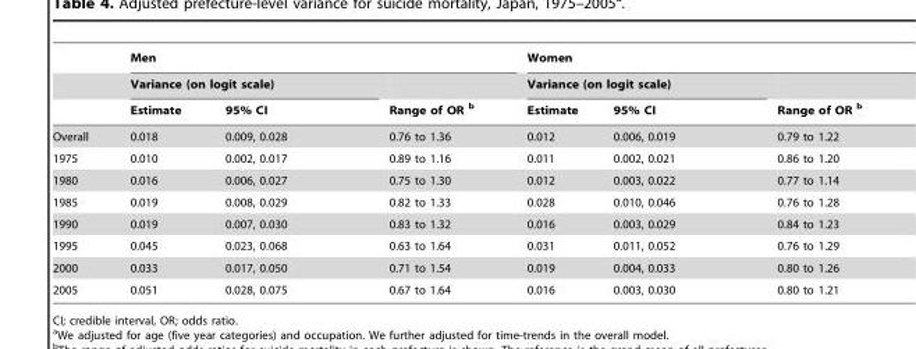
<table><thead><tr><td rowspan="3"></td><td colspan="3">Men</td><td colspan="3">Women</td></tr><tr><td colspan="2">Variance (on logit scale)</td><td rowspan="2">Range of OR b</td><td colspan="2">Variance (on logit scale)</td><td rowspan="2">Range of OR b</td></tr><tr><td>Estimate</td><td>95% CI</td><td>Estimate</td><td>95% CI</td></tr></thead><tbody><tr><td>Overall</td><td>0.018</td><td>0.009, 0.028</td><td>0.76 to 1.36</td><td>0.012</td><td>0.006, 0.019</td><td>0.79 to 1.22</td></tr><tr><td>1975</td><td>0.010</td><td>0.002, 0.017</td><td>0.89 to 1.16</td><td>0.011</td><td>0.002, 0.021</td><td>0.86 to 1.20</td></tr><tr><td>1980</td><td>0.016</td><td>0.006, 0.027</td><td>0.75 to 1.30</td><td>0.012</td><td>0.003, 0.022</td><td>0.77 to 1.14</td></tr><tr><td>1985</td><td>0.019</td><td>0.008, 0.029</td><td>0.82 to 1.33</td><td>0.028</td><td>0.010, 0.046</td><td>0.76 to 1.28</td></tr><tr><td>1990</td><td>0.019</td><td>0.007, 0.030</td><td>0.83 to 1.32</td><td>0.016</td><td>0.003, 0.029</td><td>0.84 to 1.23</td></tr><tr><td>1995</td><td>0.045</td><td>0.023, 0.068</td><td>0.63 to 1.64</td><td>0.031</td><td>0.011, 0.052</td><td>0.76 to 1.29</td></tr><tr><td>2000</td><td>0.033</td><td>0.017, 0.050</td><td>0.71 to 1.54</td><td>0.019</td><td>0.004, 0.033</td><td>0.80 to 1.26</td></tr><tr><td>2005</td><td>0.051</td><td>0.028, 0.075</td><td>0.67 to 1.64</td><td>0.016</td><td>0.003, 0.030</td><td>0.80 to 1.21</td></tr></tbody></table>